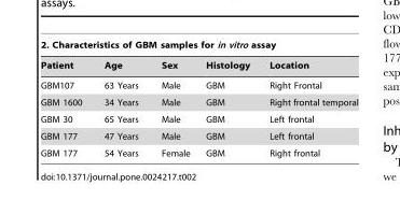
<table><thead><tr><td colspan="5">2. Characteristics of GBM samples for in vitro assay</td></tr><tr><td>Patient</td><td>Age</td><td>Sex</td><td>Histology</td><td>Location</td></tr></thead><tbody><tr><td>GBM107</td><td>63 Years</td><td>Male</td><td>GBM</td><td>Right Frontal</td></tr><tr><td>GBM 1600</td><td>34 Years</td><td>Male</td><td>GBM</td><td>Right frontal temporal</td></tr><tr><td>GBM 30</td><td>65 Years</td><td>Male</td><td>GBM</td><td>Left frontal</td></tr><tr><td>GBM 177</td><td>47 Years</td><td>Male</td><td>GBM</td><td>Left frontal</td></tr><tr><td>GBM 177</td><td>54 Years</td><td>Female</td><td>GBM</td><td>Right frontal</td></tr></tbody></table>